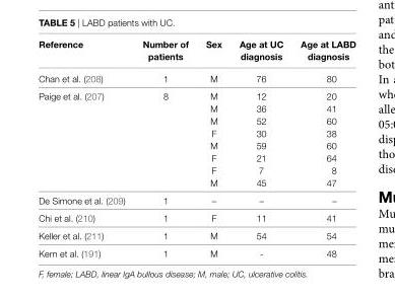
<table><thead><tr><td>Reference</td><td>Number of patients</td><td>Sex</td><td>Age at UC diagnosis</td><td>Age at LABD diagnosis</td></tr></thead><tbody><tr><td>Chan et al. (208)</td><td>1</td><td>M</td><td>76</td><td>80</td></tr><tr><td rowspan="8">Paige et al. (207)</td><td rowspan="8">8</td><td>M</td><td>12</td><td>20</td></tr><tr><td>M</td><td>36</td><td>41</td></tr><tr><td>M</td><td>52</td><td>60</td></tr><tr><td>F</td><td>30</td><td>38</td></tr><tr><td>M</td><td>59</td><td>60</td></tr><tr><td>F</td><td>21</td><td>64</td></tr><tr><td>F</td><td>7</td><td>8</td></tr><tr><td>M</td><td>45</td><td>47</td></tr><tr><td>De Simone et al. (209)</td><td>1</td><td>–</td><td>–</td><td>–</td></tr><tr><td>Chi et al. (210)</td><td>1</td><td>F</td><td>11</td><td>41</td></tr><tr><td>Keller et al. (211)</td><td>1</td><td>M</td><td>54</td><td>54</td></tr><tr><td>Kern et al. (191)</td><td>1</td><td>M</td><td>-</td><td>48</td></tr></tbody></table>